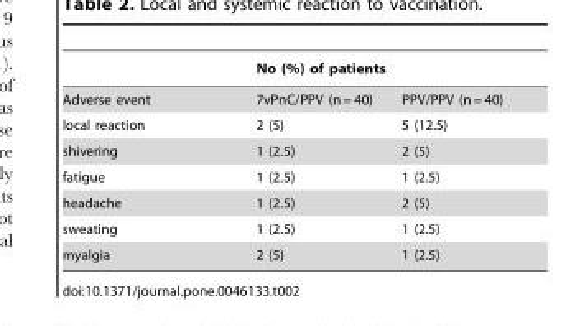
<table><thead><tr><td rowspan="2">Adverse event</td><td colspan="2">No (%) of patients</td></tr><tr><td>7vPnC/PPV (n = 40)</td><td>PPV/PPV (n = 40)</td></tr></thead><tbody><tr><td>local reaction</td><td>2 (5)</td><td>5 (12.5)</td></tr><tr><td>shivering</td><td>1 (2.5)</td><td>2 (5)</td></tr><tr><td>fatigue</td><td>1 (2.5)</td><td>1 (2.5)</td></tr><tr><td>headache</td><td>1 (2.5)</td><td>2 (5)</td></tr><tr><td>sweating</td><td>1 (2.5)</td><td>1 (2.5)</td></tr><tr><td>myalgia</td><td>2 (5)</td><td>1 (2.5)</td></tr></tbody></table>